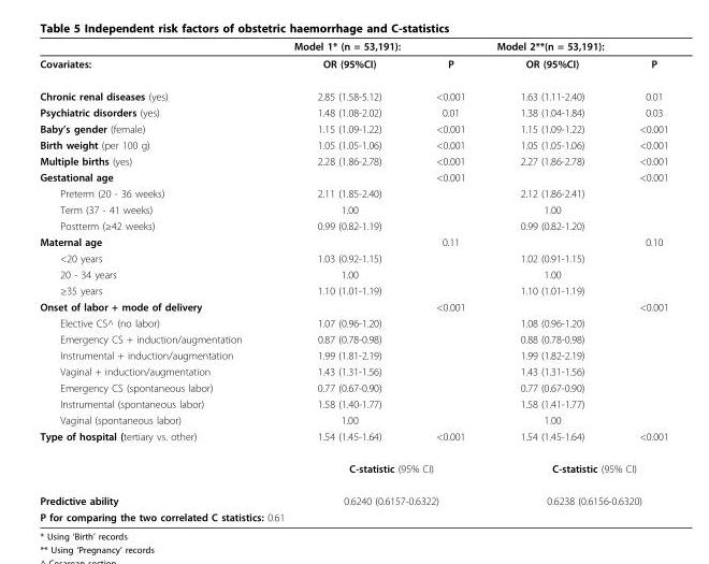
<table><thead><tr><td rowspan="2">Covariates:</td><td colspan="2">Model 1* (n = 53,191):</td><td colspan="2">Model 2**(n = 53,191):</td></tr><tr><td>OR (95%CI)</td><td>P</td><td>OR (95%CI)</td><td>P</td></tr></thead><tbody><tr><td>Chronic renal diseases (yes)</td><td>2.85 (1.58-5.12)</td><td>&lt;0.001</td><td>1.63 (1.11-2.40)</td><td>0.01</td></tr><tr><td>Psychiatric disorders (yes)</td><td>1.48 (1.08-2.02)</td><td>0.01</td><td>1.38 (1.04-1.84)</td><td>0.03</td></tr><tr><td>Baby’s gender (female)</td><td>1.15 (1.09-1.22)</td><td>&lt;0.001</td><td>1.15 (1.09-1.22)</td><td>&lt;0.001</td></tr><tr><td>Birth weight (per 100 g)</td><td>1.05 (1.05-1.06)</td><td>&lt;0.001</td><td>1.05 (1.05-1.06)</td><td>&lt;0.001</td></tr><tr><td>Multiple births (yes)</td><td>2.28 (1.86-2.78)</td><td>&lt;0.001</td><td>2.27 (1.86-2.78)</td><td>&lt;0.001</td></tr><tr><td>Gestational age</td><td></td><td>&lt;0.001</td><td></td><td>&lt;0.001</td></tr><tr><td>Preterm (20 - 36 weeks)</td><td>2.11 (1.85-2.40)</td><td></td><td>2.12 (1.86-2.41)</td><td></td></tr><tr><td>Term (37 - 41 weeks)</td><td>1.00</td><td></td><td>1.00</td><td></td></tr><tr><td>Postterm (≥42 weeks)</td><td>0.99 (0.82-1.19)</td><td></td><td>0.99 (0.82-1.20)</td><td></td></tr><tr><td>Maternal age</td><td></td><td>0.11</td><td></td><td>0.10</td></tr><tr><td>&lt;20 years</td><td>1.03 (0.92-1.15)</td><td></td><td>1.02 (0.91-1.15)</td><td></td></tr><tr><td>20 - 34 years</td><td>1.00</td><td></td><td>1.00</td><td></td></tr><tr><td>≥35 years</td><td>1.10 (1.01-1.19)</td><td></td><td>1.10 (1.01-1.19)</td><td></td></tr><tr><td>Onset of labor + mode of delivery</td><td></td><td>&lt;0.001</td><td></td><td>&lt;0.001</td></tr><tr><td>Elective CS^ (no labor)</td><td>1.07 (0.96-1.20)</td><td></td><td>1.08 (0.96-1.20)</td><td></td></tr><tr><td>Emergency CS + induction/augmentation</td><td>0.87 (0.78-0.98)</td><td></td><td>0.88 (0.78-0.98)</td><td></td></tr><tr><td>Instrumental + induction/augmentation</td><td>1.99 (1.81-2.19)</td><td></td><td>1.99 (1.82-2.19)</td><td></td></tr><tr><td>Vaginal + induction/augmentation</td><td>1.43 (1.31-1.56)</td><td></td><td>1.43 (1.31-1.56)</td><td></td></tr><tr><td>Emergency CS (spontaneous labor)</td><td>0.77 (0.67-0.90)</td><td></td><td>0.77 (0.67-0.90)</td><td></td></tr><tr><td>Instrumental (spontaneous labor)</td><td>1.58 (1.40-1.77)</td><td></td><td>1.58 (1.41-1.77)</td><td></td></tr><tr><td>Vaginal (spontaneous labor)</td><td>1.00</td><td></td><td>1.00</td><td></td></tr><tr><td rowspan="2">Type of hospital (tertiary vs. other)</td><td>1.54 (1.45-1.64)</td><td>&lt;0.001</td><td>1.54 (1.45-1.64)</td><td>&lt;0.001</td></tr><tr><td colspan="2">C-statistic (95% CI)</td><td colspan="2">C-statistic (95% CI)</td></tr><tr><td>Predictive ability</td><td colspan="2">0.6240 (0.6157-0.6322)</td><td colspan="2">0.6238 (0.6156-0.6320)</td></tr><tr><td colspan="5">P for comparing the two correlated C statistics: 0.61</td></tr></tbody></table>